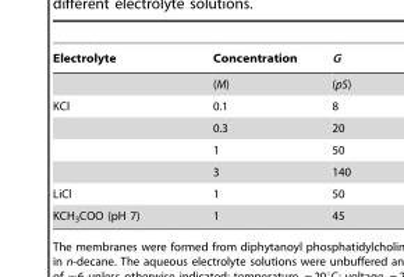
<table><thead><tr><td>Electrolyte</td><td>Concentration</td><td>G</td></tr></thead><tbody><tr><td></td><td>(M)</td><td>(pS)</td></tr><tr><td rowspan="4">KCl</td><td>0.1</td><td>8</td></tr><tr><td>0.3</td><td>20</td></tr><tr><td>1</td><td>50</td></tr><tr><td>3</td><td>140</td></tr><tr><td>LiCl</td><td>1</td><td>50</td></tr><tr><td>KCH<sub>3</sub>COO (pH 7)</td><td>1</td><td>45</td></tr></tbody></table>